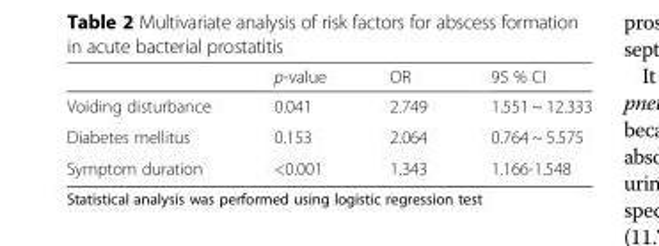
<table><thead><tr><td></td><td>p-value</td><td>OR</td><td>95 % CI</td></tr></thead><tbody><tr><td>Voiding disturbance</td><td>0.041</td><td>2.749</td><td>1.551 ~ 12.333</td></tr><tr><td>Diabetes mellitus</td><td>0.153</td><td>2.064</td><td>0.764 ~ 5.575</td></tr><tr><td>Symptom duration</td><td>&lt;0.001</td><td>1.343</td><td>1.166-1.548</td></tr></tbody></table>